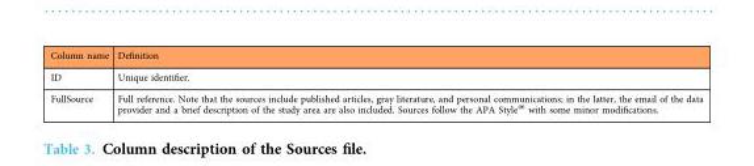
<table><thead><tr><td>Column name</td><td>Definition</td></tr></thead><tbody><tr><td>ID</td><td>Unique identifier.</td></tr><tr><td>FullSource</td><td>Full reference. Note that the sources include published articles, gray literature, and personal communications; in the latter, the email of the data provider and a brief description of the study area are also included. Sources follow the APA Style<sup>46</sup> with some minor modifications.</td></tr></tbody></table>